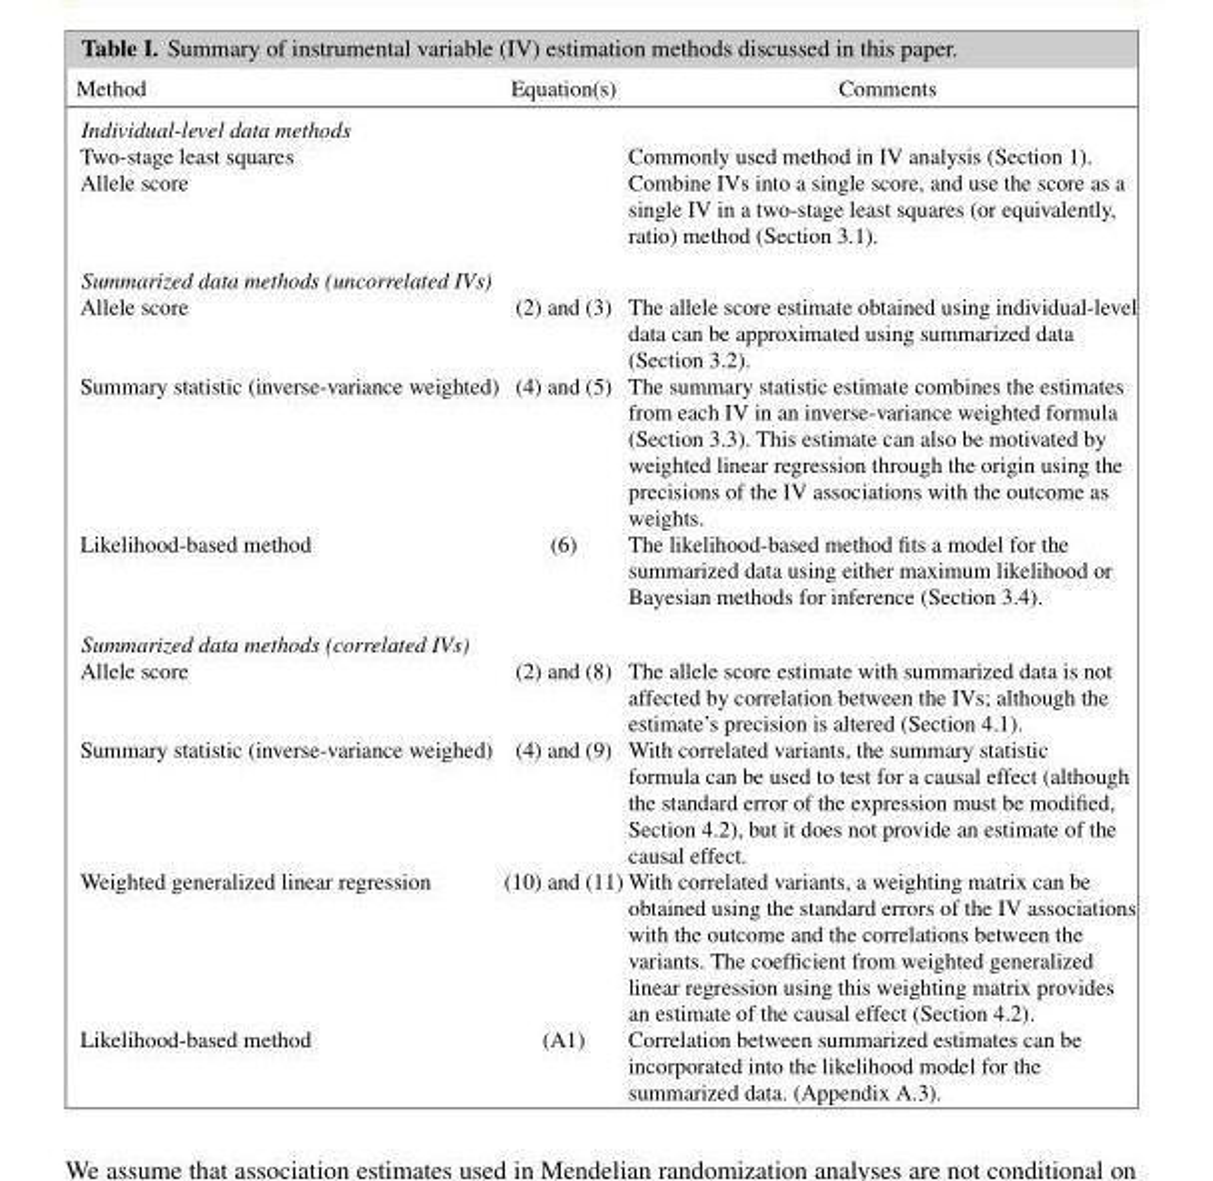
<table><thead><tr><td>Method</td><td>Equation(s)</td><td>Comments</td></tr></thead><tbody><tr><td colspan="3">Individual-level data methods</td></tr><tr><td>Two-stage least squares</td><td></td><td>Commonly used method in IV analysis (Section 1).</td></tr><tr><td rowspan="3">Allele score</td><td></td><td>Combine IVs into a single score, and use the score as a</td></tr><tr><td></td><td>single IV in a two-stage least squares (or equivalently,</td></tr><tr><td></td><td>ratio) method (Section 3.1).</td></tr><tr><td colspan="3">Summarized data methods (uncorrelated IVs)</td></tr><tr><td rowspan="3">Allele score</td><td>(2) and (3)</td><td>The allele score estimate obtained using individual-level</td></tr><tr><td></td><td>data can be approximated using summarized data</td></tr><tr><td></td><td>(Section 3.2).</td></tr><tr><td rowspan="6">Summary statistic (inverse-variance weighted)</td><td>(4) and (5)</td><td>The summary statistic estimate combines the estimates</td></tr><tr><td></td><td>from each IV in an inverse-variance weighted formula</td></tr><tr><td></td><td>(Section 3.3). This estimate can also be motivated by</td></tr><tr><td></td><td>weighted linear regression through the origin using the</td></tr><tr><td></td><td>precisions of the IV associations with the outcome as</td></tr><tr><td></td><td>weights.</td></tr><tr><td rowspan="3">Likelihood-based method</td><td>(6)</td><td>The likelihood-based method fits a model for the</td></tr><tr><td></td><td>summarized data using either maximum likelihood or</td></tr><tr><td></td><td>Bayesian methods for inference (Section 3.4).</td></tr><tr><td colspan="3">Summarized data methods (correlated IVs)</td></tr><tr><td rowspan="3">Allele score</td><td>(2) and (8)</td><td>The allele score estimate with summarized data is not</td></tr><tr><td></td><td>affected by correlation between the IVs; although the</td></tr><tr><td></td><td>estimate’s precision is altered (Section 4.1).</td></tr><tr><td rowspan="5">Summary statistic (inverse-variance weighed)</td><td>(4) and (9)</td><td>With correlated variants, the summary statistic</td></tr><tr><td></td><td>formula can be used to test for a causal effect (although</td></tr><tr><td></td><td>the standard error of the expression must be modified,</td></tr><tr><td></td><td>Section 4.2), but it does not provide an estimate of the</td></tr><tr><td></td><td>causal effect.</td></tr><tr><td rowspan="6">Weighted generalized linear regression</td><td>(10) and (11)</td><td>With correlated variants, a weighting matrix can be</td></tr><tr><td></td><td>obtained using the standard errors of the IV associations</td></tr><tr><td></td><td>with the outcome and the correlations between the</td></tr><tr><td></td><td>variants. The coefficient from weighted generalized</td></tr><tr><td></td><td>linear regression using this weighting matrix provides</td></tr><tr><td></td><td>an estimate of the causal effect (Section 4.2).</td></tr><tr><td rowspan="3">Likelihood-based method</td><td>(A1)</td><td>Correlation between summarized estimates can be</td></tr><tr><td></td><td>incorporated into the likelihood model for the</td></tr><tr><td></td><td>summarized data. (Appendix A.3).</td></tr></tbody></table>